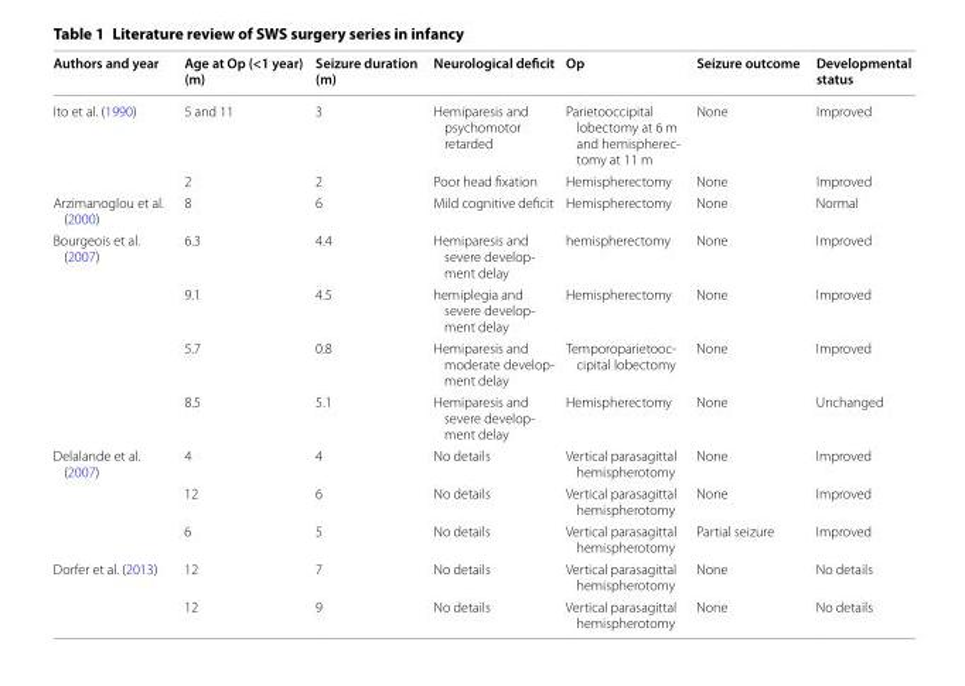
<table><thead><tr><td>Authors and year</td><td>Age at Op (&lt;1 year) (m)</td><td>Seizure duration (m)</td><td>Neurological deficit</td><td>Op</td><td>Seizure outcome</td><td>Developmental status</td></tr></thead><tbody><tr><td rowspan="2">Ito et al. (1990)</td><td>5 and 11</td><td>3</td><td>Hemiparesis and psychomotor retarded</td><td>Parietooccipital lobectomy at 6 m and hemispherec- tomy at 11 m</td><td>None</td><td>Improved</td></tr><tr><td>2</td><td>2</td><td>Poor head fixation</td><td>Hemispherectomy</td><td>None</td><td>Improved</td></tr><tr><td>Arzimanoglou et al. (2000)</td><td>8</td><td>6</td><td>Mild cognitive deficit</td><td>Hemispherectomy</td><td>None</td><td>Normal</td></tr><tr><td rowspan="4">Bourgeois et al. (2007)</td><td>6.3</td><td>4.4</td><td>Hemiparesis and severe develop- ment delay</td><td>hemispherectomy</td><td>None</td><td>Improved</td></tr><tr><td>9.1</td><td>4.5</td><td>hemiplegia and severe develop- ment delay</td><td>Hemispherectomy</td><td>None</td><td>Improved</td></tr><tr><td>5.7</td><td>0.8</td><td>Hemiparesis and moderate develop- ment delay</td><td>Temporoparietooc- cipital lobectomy</td><td>None</td><td>Improved</td></tr><tr><td>8.5</td><td>5.1</td><td>Hemiparesis and severe develop- ment delay</td><td>Hemispherectomy</td><td>None</td><td>Unchanged</td></tr><tr><td rowspan="3">Delalande et al. (2007)</td><td>4</td><td>4</td><td>No details</td><td>Vertical parasagittal hemispherotomy</td><td>None</td><td>Improved</td></tr><tr><td>12</td><td>6</td><td>No details</td><td>Vertical parasagittal hemispherotomy</td><td>None</td><td>Improved</td></tr><tr><td>6</td><td>5</td><td>No details</td><td>Vertical parasagittal hemispherotomy</td><td>Partial seizure</td><td>Improved</td></tr><tr><td rowspan="2">Dorfer et al. (2013)</td><td>12</td><td>7</td><td>No details</td><td>Vertical parasagittal hemispherotomy</td><td>None</td><td>No details</td></tr><tr><td>12</td><td>9</td><td>No details</td><td>Vertical parasagittal hemispherotomy</td><td>None</td><td>No details</td></tr></tbody></table>